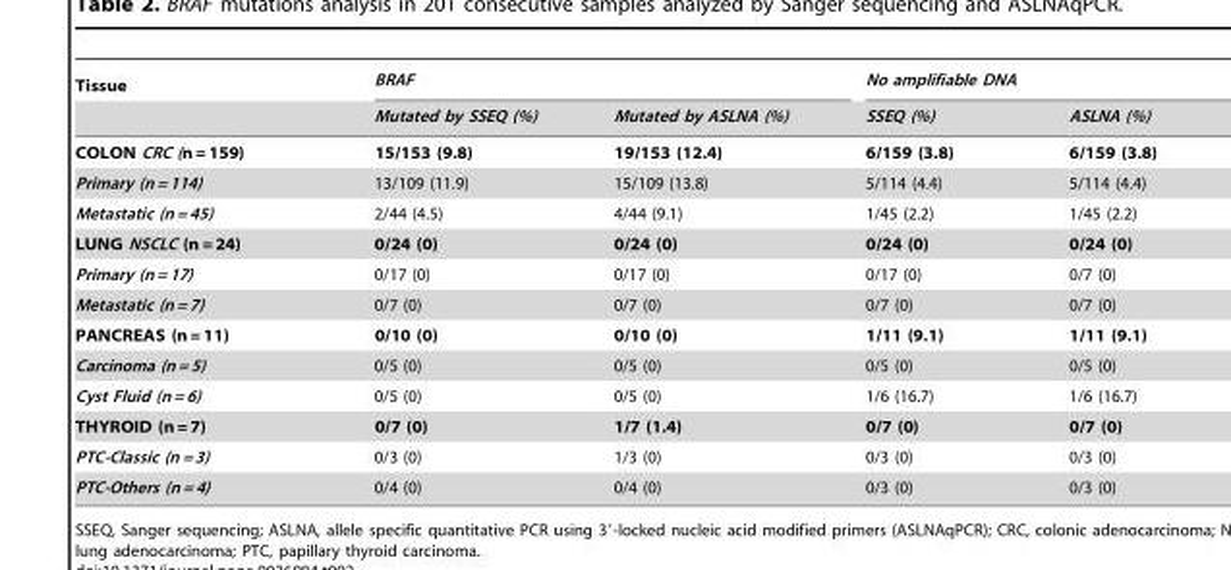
<table><thead><tr><td rowspan="2">Tissue</td><td colspan="2">BRAF</td><td colspan="2">No amplifiable DNA</td></tr><tr><td>Mutated by SSEQ (%)</td><td>Mutated by ASLNA (%)</td><td>SSEQ (%)</td><td>ASLNA (%)</td></tr></thead><tbody><tr><td>COLON CRC (n = 159)</td><td>15/153 (9.8)</td><td>19/153 (12.4)</td><td>6/159 (3.8)</td><td>6/159 (3.8)</td></tr><tr><td>Primary (n = 114)</td><td>13/109 (11.9)</td><td>15/109 (13.8)</td><td>5/114 (4.4)</td><td>5/114 (4.4)</td></tr><tr><td>Metastatic (n = 45)</td><td>2/44 (4.5)</td><td>4/44 (9.1)</td><td>1/45 (2.2)</td><td>1/45 (2.2)</td></tr><tr><td>LUNG NSCLC (n = 24)</td><td>0/24 (0)</td><td>0/24 (0)</td><td>0/24 (0)</td><td>0/24 (0)</td></tr><tr><td>Primary (n = 17)</td><td>0/17 (0)</td><td>0/17 (0)</td><td>0/17 (0)</td><td>0/7 (0)</td></tr><tr><td>Metastatic (n = 7)</td><td>0/7 (0)</td><td>0/7 (0)</td><td>0/7 (0)</td><td>0/7 (0)</td></tr><tr><td>PANCREAS (n = 11)</td><td>0/10 (0)</td><td>0/10 (0)</td><td>1/11 (9.1)</td><td>1/11 (9.1)</td></tr><tr><td>Carcinoma (n = 5)</td><td>0/5 (0)</td><td>0/5 (0)</td><td>0/5 (0)</td><td>0/5 (0)</td></tr><tr><td>Cyst Fluid (n = 6)</td><td>0/5 (0)</td><td>0/5 (0)</td><td>1/6 (16.7)</td><td>1/6 (16.7)</td></tr><tr><td>THYROID (n = 7)</td><td>0/7 (0)</td><td>1/7 (1.4)</td><td>0/7 (0)</td><td>0/7 (0)</td></tr><tr><td>PTC-Classic (n = 3)</td><td>0/3 (0)</td><td>1/3 (0)</td><td>0/3 (0)</td><td>0/3 (0)</td></tr><tr><td>PTC-Others (n = 4)</td><td>0/4 (0)</td><td>0/4 (0)</td><td>0/3 (0)</td><td>0/3 (0)</td></tr></tbody></table>